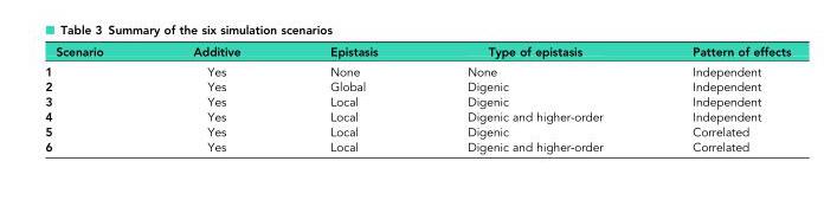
<table><thead><tr><td>Scenario</td><td>Additive</td><td>Epistasis</td><td>Type of epistasis</td><td>Pattern of effects</td></tr></thead><tbody><tr><td>1</td><td>Yes</td><td>None</td><td>None</td><td>Independent</td></tr><tr><td>2</td><td>Yes</td><td>Global</td><td>Digenic</td><td>Independent</td></tr><tr><td>3</td><td>Yes</td><td>Local</td><td>Digenic</td><td>Independent</td></tr><tr><td>4</td><td>Yes</td><td>Local</td><td>Digenic and higher-order</td><td>Independent</td></tr><tr><td>5</td><td>Yes</td><td>Local</td><td>Digenic</td><td>Correlated</td></tr><tr><td>6</td><td>Yes</td><td>Local</td><td>Digenic and higher-order</td><td>Correlated</td></tr></tbody></table>